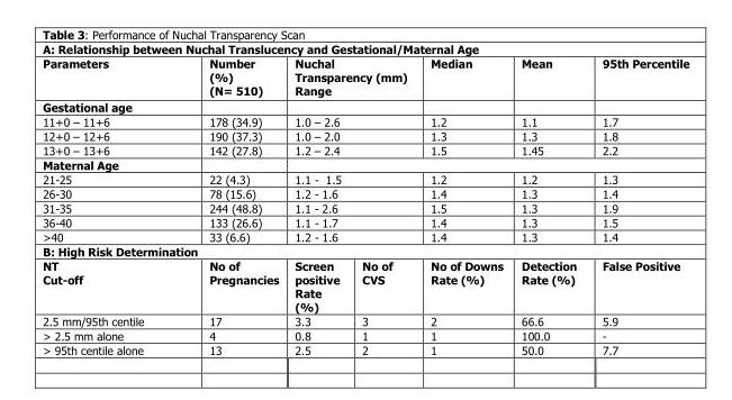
<table><thead><tr><td colspan="7">A: Relationship between Nuchal Translucency and Gestational/Maternal Age</td></tr><tr><td>Parameters</td><td>Number (%) (N= 510)</td><td colspan="2">Nuchal Transparency (mm) Range</td><td>Median</td><td>Mean</td><td>95th Percentile</td></tr></thead><tbody><tr><td colspan="7">Gestational age</td></tr><tr><td>11+0 – 11+6</td><td>178 (34.9)</td><td colspan="2">1.0 – 2.6</td><td>1.2</td><td>1.1</td><td>1.7</td></tr><tr><td>12+0 – 12+6</td><td>190 (37.3)</td><td colspan="2">1.0 – 2.0</td><td>1.3</td><td>1.3</td><td>1.8</td></tr><tr><td>13+0 – 13+6</td><td>142 (27.8)</td><td colspan="2">1.2 – 2.4</td><td>1.5</td><td>1.45</td><td>2.2</td></tr><tr><td colspan="7">Maternal Age</td></tr><tr><td>21-25</td><td>22 (4.3)</td><td colspan="2">1.1 - 1.5</td><td>1.2</td><td>1.2</td><td>1.3</td></tr><tr><td>26-30</td><td>78 (15.6)</td><td colspan="2">1.2 - 1.6</td><td>1.4</td><td>1.3</td><td>1.4</td></tr><tr><td>31-35</td><td>244 (48.8)</td><td colspan="2">1.1 - 2.6</td><td>1.5</td><td>1.3</td><td>1.9</td></tr><tr><td>36-40</td><td>133 (26.6)</td><td colspan="2">1.1 - 1.7</td><td>1.4</td><td>1.3</td><td>1.5</td></tr><tr><td>&gt;40</td><td>33 (6.6)</td><td colspan="2">1.2 - 1.6</td><td>1.4</td><td>1.3</td><td>1.4</td></tr><tr><td colspan="7">B: High Risk Determination</td></tr><tr><td>NT Cut-off</td><td>No of Pregnancies</td><td>Screen positive Rate (%)</td><td>No of CVS</td><td>No of Downs Rate (%)</td><td>Detection Rate (%)</td><td>False Positive</td></tr><tr><td>2.5 mm/95th centile</td><td>17</td><td>3.3</td><td>3</td><td>2</td><td>66.6</td><td>5.9</td></tr><tr><td>&gt; 2.5 mm alone</td><td>4</td><td>0.8</td><td>1</td><td>1</td><td>100.0</td><td>-</td></tr><tr><td>&gt; 95th centile alone</td><td>13</td><td>2.5</td><td>2</td><td>1</td><td>50.0</td><td>7.7</td></tr></tbody></table>